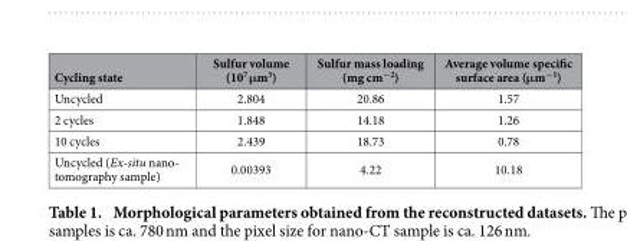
<table><thead><tr><td>Cycling state</td><td>Sulfur volume (10<sup>7</sup> μm<sup>3</sup>)</td><td>Sulfur mass loading (mg cm<sup>−2</sup>)</td><td>Average volume specific surface area (μm<sup>−1</sup>)</td></tr></thead><tbody><tr><td>Uncycled</td><td>2.804</td><td>20.86</td><td>1.57</td></tr><tr><td>2 cycles</td><td>1.848</td><td>14.18</td><td>1.26</td></tr><tr><td>10 cycles</td><td>2.439</td><td>18.73</td><td>0.78</td></tr><tr><td>Uncycled (Ex-situ nano- tomography sample)</td><td>0.00393</td><td>4.22</td><td>10.18</td></tr></tbody></table>